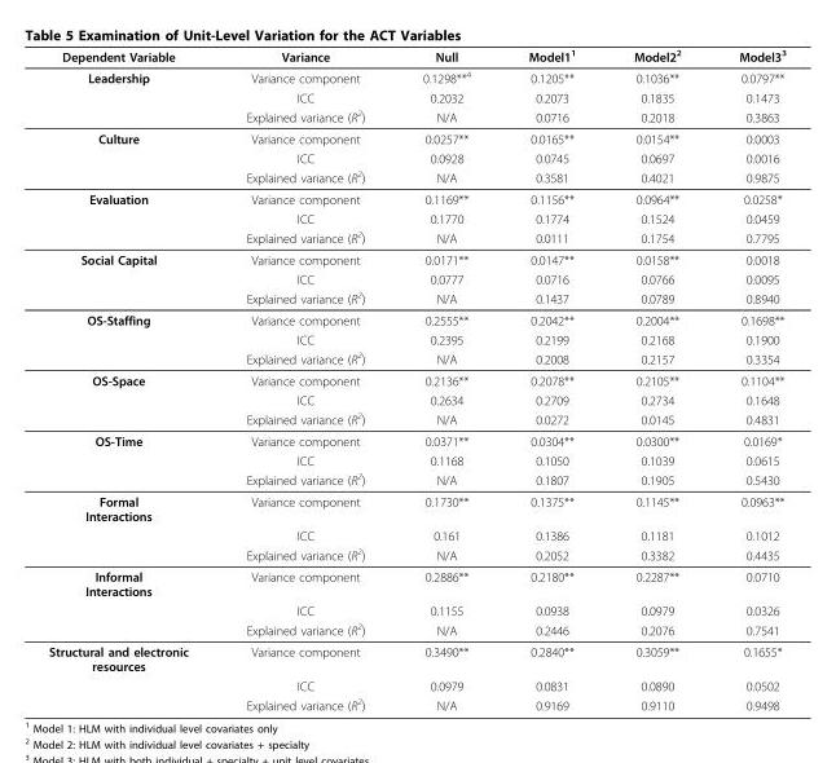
<table><thead><tr><td>Dependent Variable</td><td>Variance</td><td>Null</td><td>Model1<sup>1</sup></td><td>Model2<sup>2</sup></td><td>Model3<sup>3</sup></td></tr></thead><tbody><tr><td rowspan="3">Leadership</td><td>Variance component</td><td>0.1298**<sup>4</sup></td><td>0.1205**</td><td>0.1036**</td><td>0.0797**</td></tr><tr><td>ICC</td><td>0.2032</td><td>0.2073</td><td>0.1835</td><td>0.1473</td></tr><tr><td>Explained variance (R<sup>2</sup>)</td><td>N/A</td><td>0.0716</td><td>0.2018</td><td>0.3863</td></tr><tr><td rowspan="3">Culture</td><td>Variance component</td><td>0.0257**</td><td>0.0165**</td><td>0.0154**</td><td>0.0003</td></tr><tr><td>ICC</td><td>0.0928</td><td>0.0745</td><td>0.0697</td><td>0.0016</td></tr><tr><td>Explained variance (R<sup>2</sup>)</td><td>N/A</td><td>0.3581</td><td>0.4021</td><td>0.9875</td></tr><tr><td rowspan="3">Evaluation</td><td>Variance component</td><td>0.1169**</td><td>0.1156**</td><td>0.0964**</td><td>0.0258*</td></tr><tr><td>ICC</td><td>0.1770</td><td>0.1774</td><td>0.1524</td><td>0.0459</td></tr><tr><td>Explained variance (R<sup>2</sup>)</td><td>N/A</td><td>0.0111</td><td>0.1754</td><td>0.7795</td></tr><tr><td rowspan="3">Social Capital</td><td>Variance component</td><td>0.0171**</td><td>0.0147**</td><td>0.0158**</td><td>0.0018</td></tr><tr><td>ICC</td><td>0.0777</td><td>0.0716</td><td>0.0766</td><td>0.0095</td></tr><tr><td>Explained variance (R<sup>2</sup>)</td><td>N/A</td><td>0.1437</td><td>0.0789</td><td>0.8940</td></tr><tr><td rowspan="3">OS-Staffing</td><td>Variance component</td><td>0.2555**</td><td>0.2042**</td><td>0.2004**</td><td>0.1698**</td></tr><tr><td>ICC</td><td>0.2395</td><td>0.2199</td><td>0.2168</td><td>0.1900</td></tr><tr><td>Explained variance (R<sup>2</sup>)</td><td>N/A</td><td>0.2008</td><td>0.2157</td><td>0.3354</td></tr><tr><td rowspan="3">OS-Space</td><td>Variance component</td><td>0.2136**</td><td>0.2078**</td><td>0.2105**</td><td>0.1104**</td></tr><tr><td>ICC</td><td>0.2634</td><td>0.2709</td><td>0.2734</td><td>0.1648</td></tr><tr><td>Explained variance (R<sup>2</sup>)</td><td>N/A</td><td>0.0272</td><td>0.0145</td><td>0.4831</td></tr><tr><td rowspan="3">OS-Time</td><td>Variance component</td><td>0.0371**</td><td>0.0304**</td><td>0.0300**</td><td>0.0169*</td></tr><tr><td>ICC</td><td>0.1168</td><td>0.1050</td><td>0.1039</td><td>0.0615</td></tr><tr><td>Explained variance (R<sup>2</sup>)</td><td>N/A</td><td>0.1807</td><td>0.1905</td><td>0.5430</td></tr><tr><td rowspan="3">Formal Interactions</td><td>Variance component</td><td>0.1730**</td><td>0.1375**</td><td>0.1145**</td><td>0.0963**</td></tr><tr><td>ICC</td><td>0.161</td><td>0.1386</td><td>0.1181</td><td>0.1012</td></tr><tr><td>Explained variance (R<sup>2</sup>)</td><td>N/A</td><td>0.2052</td><td>0.3382</td><td>0.4435</td></tr><tr><td rowspan="3">Informal Interactions</td><td>Variance component</td><td>0.2886**</td><td>0.2180**</td><td>0.2287**</td><td>0.0710</td></tr><tr><td>ICC</td><td>0.1155</td><td>0.0938</td><td>0.0979</td><td>0.0326</td></tr><tr><td>Explained variance (R<sup>2</sup>)</td><td>N/A</td><td>0.2446</td><td>0.2076</td><td>0.7541</td></tr><tr><td rowspan="3">Structural and electronic resources</td><td>Variance component</td><td>0.3490**</td><td>0.2840**</td><td>0.3059**</td><td>0.1655*</td></tr><tr><td>ICC</td><td>0.0979</td><td>0.0831</td><td>0.0890</td><td>0.0502</td></tr><tr><td>Explained variance (R<sup>2</sup>)</td><td>N/A</td><td>0.9169</td><td>0.9110</td><td>0.9498</td></tr></tbody></table>